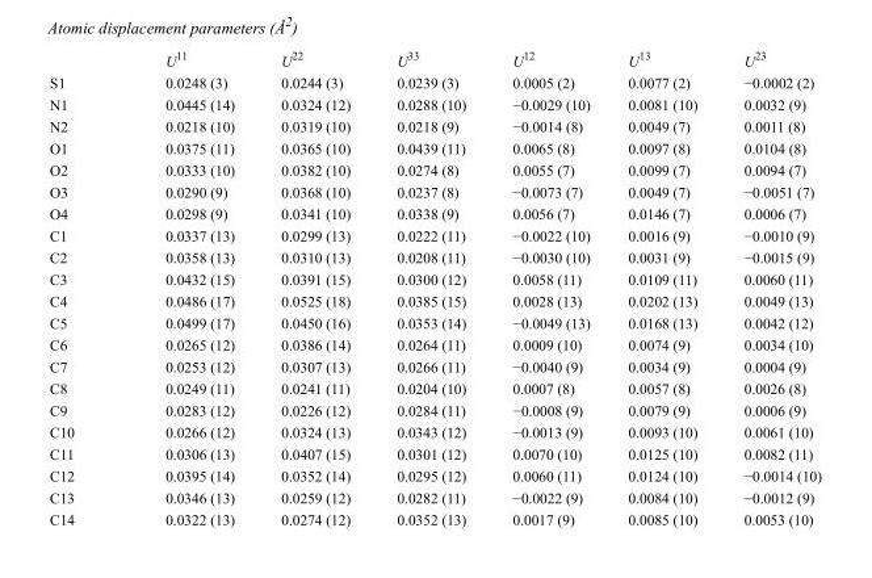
<table><thead><tr><td></td><td>U<sup>11</sup></td><td>U<sup>22</sup></td><td>U<sup>33</sup></td><td>U<sup>12</sup></td><td>U<sup>13</sup></td><td>U<sup>23</sup></td></tr></thead><tbody><tr><td>S1</td><td>0.0248 (3)</td><td>0.0244 (3)</td><td>0.0239 (3)</td><td>0.0005 (2)</td><td>0.0077 (2)</td><td>−0.0002 (2)</td></tr><tr><td>N1</td><td>0.0445 (14)</td><td>0.0324 (12)</td><td>0.0288 (10)</td><td>−0.0029 (10)</td><td>0.0081 (10)</td><td>0.0032 (9)</td></tr><tr><td>N2</td><td>0.0218 (10)</td><td>0.0319 (10)</td><td>0.0218 (9)</td><td>−0.0014 (8)</td><td>0.0049 (7)</td><td>0.0011 (8)</td></tr><tr><td>O1</td><td>0.0375 (11)</td><td>0.0365 (10)</td><td>0.0439 (11)</td><td>0.0065 (8)</td><td>0.0097 (8)</td><td>0.0104 (8)</td></tr><tr><td>O2</td><td>0.0333 (10)</td><td>0.0382 (10)</td><td>0.0274 (8)</td><td>0.0055 (7)</td><td>0.0099 (7)</td><td>0.0094 (7)</td></tr><tr><td>O3</td><td>0.0290 (9)</td><td>0.0368 (10)</td><td>0.0237 (8)</td><td>−0.0073 (7)</td><td>0.0049 (7)</td><td>−0.0051 (7)</td></tr><tr><td>O4</td><td>0.0298 (9)</td><td>0.0341 (10)</td><td>0.0338 (9)</td><td>0.0056 (7)</td><td>0.0146 (7)</td><td>0.0006 (7)</td></tr><tr><td>C1</td><td>0.0337 (13)</td><td>0.0299 (13)</td><td>0.0222 (11)</td><td>−0.0022 (10)</td><td>0.0016 (9)</td><td>−0.0010 (9)</td></tr><tr><td>C2</td><td>0.0358 (13)</td><td>0.0310 (13)</td><td>0.0208 (11)</td><td>−0.0030 (10)</td><td>0.0031 (9)</td><td>−0.0015 (9)</td></tr><tr><td>C3</td><td>0.0432 (15)</td><td>0.0391 (15)</td><td>0.0300 (12)</td><td>0.0058 (11)</td><td>0.0109 (11)</td><td>0.0060 (11)</td></tr><tr><td>C4</td><td>0.0486 (17)</td><td>0.0525 (18)</td><td>0.0385 (15)</td><td>0.0028 (13)</td><td>0.0202 (13)</td><td>0.0049 (13)</td></tr><tr><td>C5</td><td>0.0499 (17)</td><td>0.0450 (16)</td><td>0.0353 (14)</td><td>−0.0049 (13)</td><td>0.0168 (13)</td><td>0.0042 (12)</td></tr><tr><td>C6</td><td>0.0265 (12)</td><td>0.0386 (14)</td><td>0.0264 (11)</td><td>0.0009 (10)</td><td>0.0074 (9)</td><td>0.0034 (10)</td></tr><tr><td>C7</td><td>0.0253 (12)</td><td>0.0307 (13)</td><td>0.0266 (11)</td><td>−0.0040 (9)</td><td>0.0034 (9)</td><td>0.0004 (9)</td></tr><tr><td>C8</td><td>0.0249 (11)</td><td>0.0241 (11)</td><td>0.0204 (10)</td><td>0.0007 (8)</td><td>0.0057 (8)</td><td>0.0026 (8)</td></tr><tr><td>C9</td><td>0.0283 (12)</td><td>0.0226 (12)</td><td>0.0284 (11)</td><td>−0.0008 (9)</td><td>0.0079 (9)</td><td>0.0006 (9)</td></tr><tr><td>C10</td><td>0.0266 (12)</td><td>0.0324 (13)</td><td>0.0343 (12)</td><td>−0.0013 (9)</td><td>0.0093 (10)</td><td>0.0061 (10)</td></tr><tr><td>C11</td><td>0.0306 (13)</td><td>0.0407 (15)</td><td>0.0301 (12)</td><td>0.0070 (10)</td><td>0.0125 (10)</td><td>0.0082 (11)</td></tr><tr><td>C12</td><td>0.0395 (14)</td><td>0.0352 (14)</td><td>0.0295 (12)</td><td>0.0060 (11)</td><td>0.0124 (10)</td><td>−0.0014 (10)</td></tr><tr><td>C13</td><td>0.0346 (13)</td><td>0.0259 (12)</td><td>0.0282 (11)</td><td>−0.0022 (9)</td><td>0.0084 (10)</td><td>−0.0012 (9)</td></tr><tr><td>C14</td><td>0.0322 (13)</td><td>0.0274 (12)</td><td>0.0352 (13)</td><td>0.0017 (9)</td><td>0.0085 (10)</td><td>0.0053 (10)</td></tr></tbody></table>